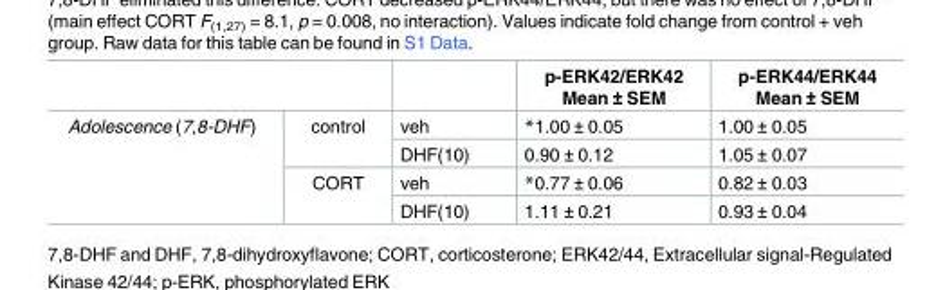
<table><thead><tr><td></td><td></td><td></td><td>p-ERK42/ERK42 Mean ± SEM</td><td>p-ERK44/ERK44 Mean ± SEM</td></tr></thead><tbody><tr><td rowspan="4">Adolescence (7,8-DHF)</td><td rowspan="2">control</td><td>veh</td><td>*1.00 ± 0.05</td><td>1.00 ± 0.05</td></tr><tr><td>DHF(10)</td><td>0.90 ± 0.12</td><td>1.05 ± 0.07</td></tr><tr><td rowspan="2">CORT</td><td>veh</td><td>*0.77 ± 0.06</td><td>0.82 ± 0.03</td></tr><tr><td>DHF(10)</td><td>1.11 ± 0.21</td><td>0.93 ± 0.04</td></tr></tbody></table>